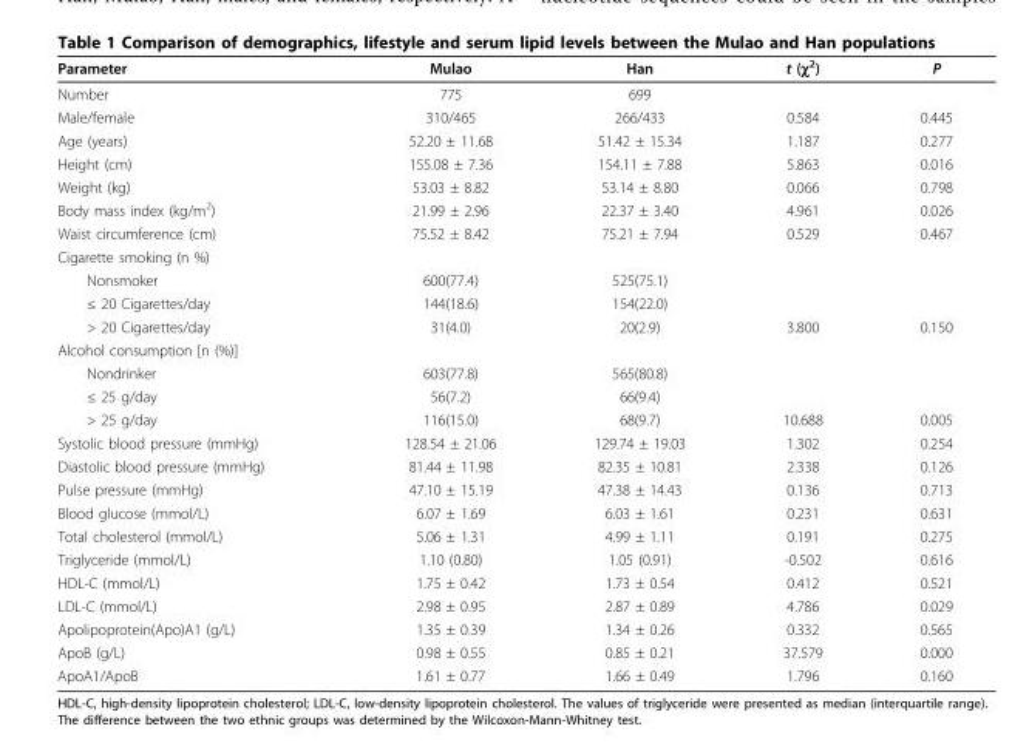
<table><thead><tr><td>Parameter</td><td>Mulao</td><td>Han</td><td>t (χ<sup>2</sup>)</td><td>P</td></tr></thead><tbody><tr><td>Number</td><td>775</td><td>699</td><td></td><td></td></tr><tr><td>Male/female</td><td>310/465</td><td>266/433</td><td>0.584</td><td>0.445</td></tr><tr><td>Age (years)</td><td>52.20 ± 11.68</td><td>51.42 ± 15.34</td><td>1.187</td><td>0.277</td></tr><tr><td>Height (cm)</td><td>155.08 ± 7.36</td><td>154.11 ± 7.88</td><td>5.863</td><td>0.016</td></tr><tr><td>Weight (kg)</td><td>53.03 ± 8.82</td><td>53.14 ± 8.80</td><td>0.066</td><td>0.798</td></tr><tr><td>Body mass index (kg/m<sup>2</sup>)</td><td>21.99 ± 2.96</td><td>22.37 ± 3.40</td><td>4.961</td><td>0.026</td></tr><tr><td>Waist circumference (cm)</td><td>75.52 ± 8.42</td><td>75.21 ± 7.94</td><td>0.529</td><td>0.467</td></tr><tr><td colspan="5">Cigarette smoking (n %)</td></tr><tr><td>Nonsmoker</td><td>600(77.4)</td><td>525(75.1)</td><td></td><td></td></tr><tr><td>≤ 20 Cigarettes/day</td><td>144(18.6)</td><td>154(22.0)</td><td></td><td></td></tr><tr><td>&gt; 20 Cigarettes/day</td><td>31(4.0)</td><td>20(2.9)</td><td>3.800</td><td>0.150</td></tr><tr><td colspan="5">Alcohol consumption [n (%)]</td></tr><tr><td>Nondrinker</td><td>603(77.8)</td><td>565(80.8)</td><td></td><td></td></tr><tr><td>≤ 25 g/day</td><td>56(7.2)</td><td>66(9.4)</td><td></td><td></td></tr><tr><td>&gt; 25 g/day</td><td>116(15.0)</td><td>68(9.7)</td><td>10.688</td><td>0.005</td></tr><tr><td>Systolic blood pressure (mmHg)</td><td>128.54 ± 21.06</td><td>129.74 ± 19.03</td><td>1.302</td><td>0.254</td></tr><tr><td>Diastolic blood pressure (mmHg)</td><td>81.44 ± 11.98</td><td>82.35 ± 10.81</td><td>2.338</td><td>0.126</td></tr><tr><td>Pulse pressure (mmHg)</td><td>47.10 ± 15.19</td><td>47.38 ± 14.43</td><td>0.136</td><td>0.713</td></tr><tr><td>Blood glucose (mmol/L)</td><td>6.07 ± 1.69</td><td>6.03 ± 1.61</td><td>0.231</td><td>0.631</td></tr><tr><td>Total cholesterol (mmol/L)</td><td>5.06 ± 1.31</td><td>4.99 ± 1.11</td><td>0.191</td><td>0.275</td></tr><tr><td>Triglyceride (mmol/L)</td><td>1.10 (0.80)</td><td>1.05 (0.91)</td><td>-0.502</td><td>0.616</td></tr><tr><td>HDL-C (mmol/L)</td><td>1.75 ± 0.42</td><td>1.73 ± 0.54</td><td>0.412</td><td>0.521</td></tr><tr><td>LDL-C (mmol/L)</td><td>2.98 ± 0.95</td><td>2.87 ± 0.89</td><td>4.786</td><td>0.029</td></tr><tr><td>Apolipoprotein(Apo)A1 (g/L)</td><td>1.35 ± 0.39</td><td>1.34 ± 0.26</td><td>0.332</td><td>0.565</td></tr><tr><td>ApoB (g/L)</td><td>0.98 ± 0.55</td><td>0.85 ± 0.21</td><td>37.579</td><td>0.000</td></tr><tr><td>ApoA1/ApoB</td><td>1.61 ± 0.77</td><td>1.66 ± 0.49</td><td>1.796</td><td>0.160</td></tr></tbody></table>